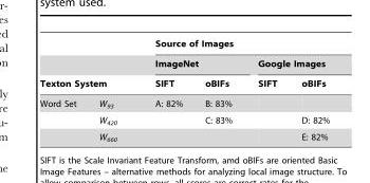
<table><thead><tr><td rowspan="2"></td><td rowspan="2"></td><td colspan="4">Source of Images</td></tr><tr><td colspan="2">ImageNet</td><td colspan="2">Google Images</td></tr><tr><td colspan="2">Texton System</td><td>SIFT</td><td>oBIFs</td><td>SIFT</td><td>oBIFs</td></tr></thead><tbody><tr><td rowspan="3">Word Set</td><td>W<sub>93</sub></td><td>A: 82%</td><td>B: 83%</td><td></td><td></td></tr><tr><td>W<sub>420</sub></td><td></td><td>C: 83%</td><td></td><td>D: 82%</td></tr><tr><td>W<sub>660</sub></td><td></td><td></td><td></td><td>E: 82%</td></tr></tbody></table>